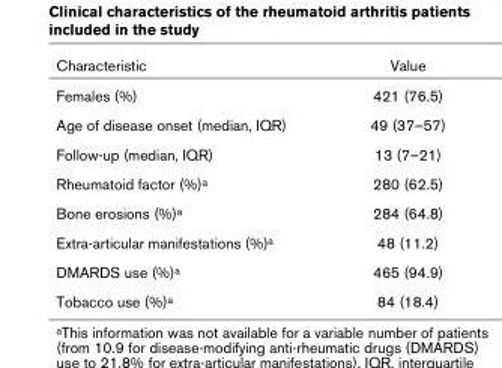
<table><thead><tr><td>Characteristic</td><td>Value</td></tr></thead><tbody><tr><td>Females (%)</td><td>421 (76.5)</td></tr><tr><td>Age of disease onset (median, IQR)</td><td>49 (37–57)</td></tr><tr><td>Follow-up (median, IQR)</td><td>13 (7–21)</td></tr><tr><td>Rheumatoid factor (%)a</td><td>280 (62.5)</td></tr><tr><td>Bone erosions (%)a</td><td>284 (64.8)</td></tr><tr><td>Extra-articular manifestations (%)a</td><td>48 (11.2)</td></tr><tr><td>DMARDS use (%)a</td><td>465 (94.9)</td></tr><tr><td>Tobacco use (%)a</td><td>84 (18.4)</td></tr></tbody></table>